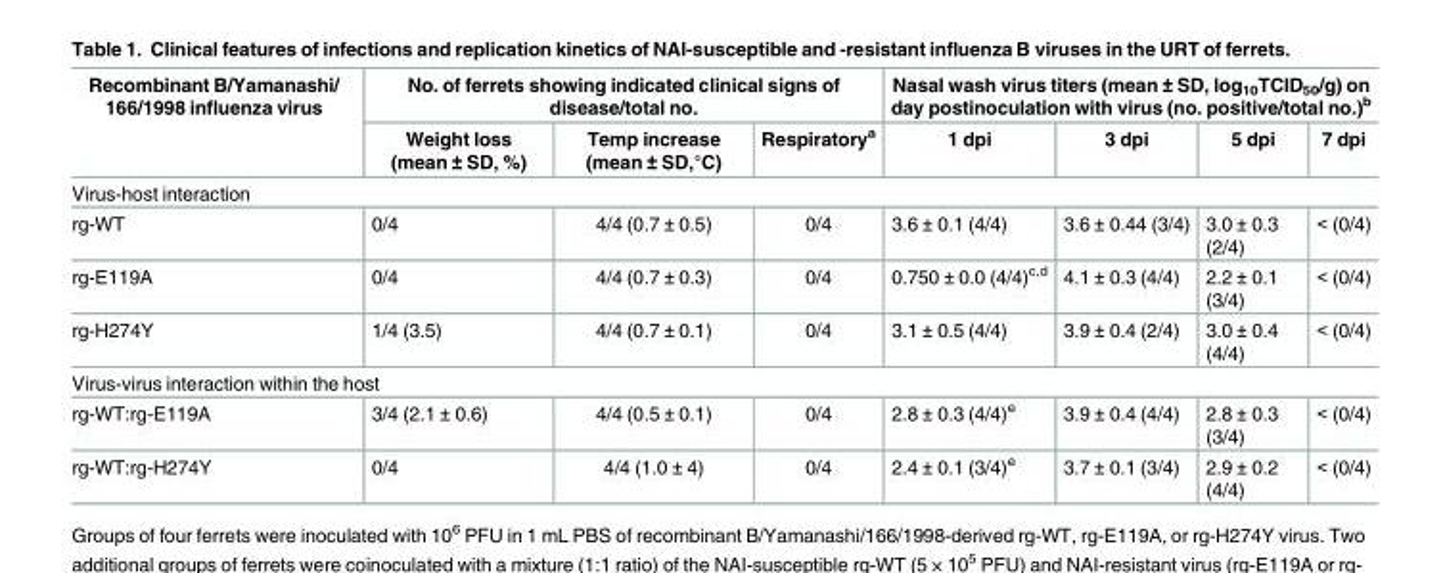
<table><thead><tr><td rowspan="2">Recombinant B/Yamanashi/ 166/1998 influenza virus</td><td colspan="3">No. of ferrets showing indicated clinical signs of disease/total no.</td><td colspan="4">Nasal wash virus titers (mean ± SD, log<sub>10</sub>TCID<sub>50</sub>/g) on day postinoculation with virus (no. positive/total no.)<sup>b</sup></td></tr><tr><td>Weight loss (mean ± SD, %)</td><td>Temp increase (mean ± SD,°C)</td><td>Respiratory<sup>a</sup></td><td>1 dpi</td><td>3 dpi</td><td>5 dpi</td><td>7 dpi</td></tr></thead><tbody><tr><td colspan="8">Virus-host interaction</td></tr><tr><td>rg-WT</td><td>0/4</td><td>4/4 (0.7 ± 0.5)</td><td>0/4</td><td>3.6 ± 0.1 (4/4)</td><td>3.6 ± 0.44 (3/4)</td><td>3.0 ± 0.3 (2/4)</td><td>&lt; (0/4)</td></tr><tr><td>rg-E119A</td><td>0/4</td><td>4/4 (0.7 ± 0.3)</td><td>0/4</td><td>0.750 ± 0.0 (4/4)<sup>c,d</sup></td><td>4.1 ± 0.3 (4/4)</td><td>2.2 ± 0.1 (3/4)</td><td>&lt; (0/4)</td></tr><tr><td>rg-H274Y</td><td>1/4 (3.5)</td><td>4/4 (0.7 ± 0.1)</td><td>0/4</td><td>3.1 ± 0.5 (4/4)</td><td>3.9 ± 0.4 (2/4)</td><td>3.0 ± 0.4 (4/4)</td><td>&lt; (0/4)</td></tr><tr><td colspan="8">Virus-virus interaction within the host</td></tr><tr><td>rg-WT:rg-E119A</td><td>3/4 (2.1 ± 0.6)</td><td>4/4 (0.5 ± 0.1)</td><td>0/4</td><td>2.8 ± 0.3 (4/4)<sup>e</sup></td><td>3.9 ± 0.4 (4/4)</td><td>2.8 ± 0.3 (3/4)</td><td>&lt; (0/4)</td></tr><tr><td>rg-WT:rg-H274Y</td><td>0/4</td><td>4/4 (1.0 ± 4)</td><td>0/4</td><td>2.4 ± 0.1 (3/4)<sup>e</sup></td><td>3.7 ± 0.1 (3/4)</td><td>2.9 ± 0.2 (4/4)</td><td>&lt; (0/4)</td></tr></tbody></table>